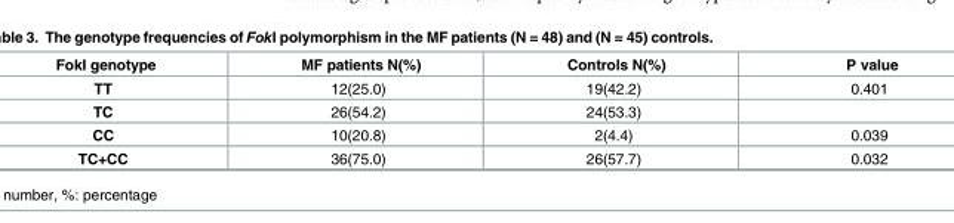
<table><thead><tr><td>FokI genotype</td><td>MF patients N(%)</td><td>Controls N(%)</td><td>P value</td></tr></thead><tbody><tr><td>TT</td><td>12(25.0)</td><td>19(42.2)</td><td>0.401</td></tr><tr><td>TC</td><td>26(54.2)</td><td>24(53.3)</td><td></td></tr><tr><td>CC</td><td>10(20.8)</td><td>2(4.4)</td><td>0.039</td></tr><tr><td>TC+CC</td><td>36(75.0)</td><td>26(57.7)</td><td>0.032</td></tr></tbody></table>